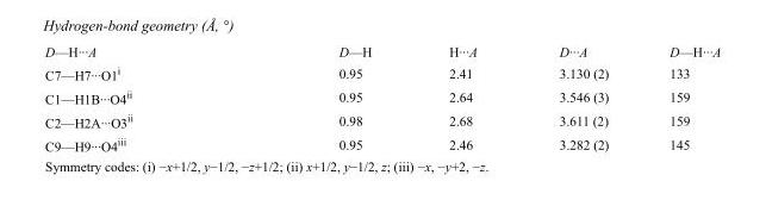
<table><tbody><tr><td>D—H···A</td><td>D—H</td><td>H···A</td><td>D···A</td><td>D—H···A</td></tr><tr><td>C7—H7···O1<sup>i</sup></td><td>0.95</td><td>2.41</td><td>3.130 (2)</td><td>133</td></tr><tr><td>C1—H1B···O4<sup>ii</sup></td><td>0.95</td><td>2.64</td><td>3.546 (3)</td><td>159</td></tr><tr><td>C2—H2A···O3<sup>ii</sup></td><td>0.98</td><td>2.68</td><td>3.611 (2)</td><td>159</td></tr><tr><td>C9—H9···O4<sup>iii</sup></td><td>0.95</td><td>2.46</td><td>3.282 (2)</td><td>145</td></tr></tbody></table>